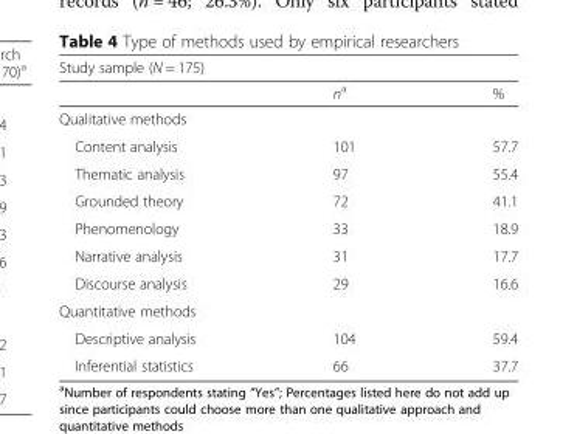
<table><thead><tr><td colspan="3">Study sample (N = 175)</td></tr><tr><td></td><td>n<sup>a</sup></td><td>%</td></tr></thead><tbody><tr><td colspan="3">Qualitative methods</td></tr><tr><td>Content analysis</td><td>101</td><td>57.7</td></tr><tr><td>Thematic analysis</td><td>97</td><td>55.4</td></tr><tr><td>Grounded theory</td><td>72</td><td>41.1</td></tr><tr><td>Phenomenology</td><td>33</td><td>18.9</td></tr><tr><td>Narrative analysis</td><td>31</td><td>17.7</td></tr><tr><td>Discourse analysis</td><td>29</td><td>16.6</td></tr><tr><td colspan="3">Quantitative methods</td></tr><tr><td>Descriptive analysis</td><td>104</td><td>59.4</td></tr><tr><td>Inferential statistics</td><td>66</td><td>37.7</td></tr></tbody></table>